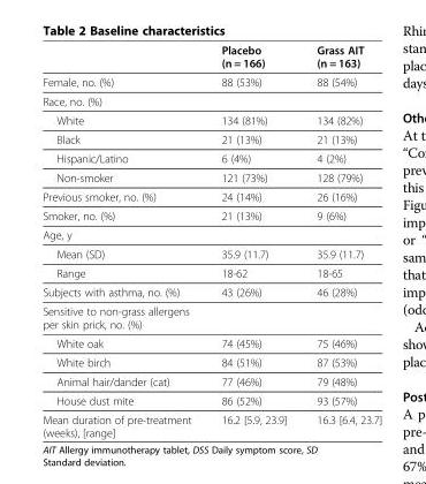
<table><thead><tr><td></td><td>Placebo (n = 166)</td><td>Grass AIT (n = 163)</td></tr></thead><tbody><tr><td>Female, no. (%)</td><td>88 (53%)</td><td>88 (54%)</td></tr><tr><td colspan="3">Race, no. (%)</td></tr><tr><td>White</td><td>134 (81%)</td><td>134 (82%)</td></tr><tr><td>Black</td><td>21 (13%)</td><td>21 (13%)</td></tr><tr><td>Hispanic/Latino</td><td>6 (4%)</td><td>4 (2%)</td></tr><tr><td>Non-smoker</td><td>121 (73%)</td><td>128 (79%)</td></tr><tr><td>Previous smoker, no. (%)</td><td>24 (14%)</td><td>26 (16%)</td></tr><tr><td>Smoker, no. (%)</td><td>21 (13%)</td><td>9 (6%)</td></tr><tr><td colspan="3">Age, y</td></tr><tr><td>Mean (SD)</td><td>35.9 (11.7)</td><td>35.9 (11.7)</td></tr><tr><td>Range</td><td>18-62</td><td>18-65</td></tr><tr><td>Subjects with asthma, no. (%)</td><td>43 (26%)</td><td>46 (28%)</td></tr><tr><td colspan="3">Sensitive to non-grass allergens per skin prick, no. (%)</td></tr><tr><td>White oak</td><td>74 (45%)</td><td>75 (46%)</td></tr><tr><td>White birch</td><td>84 (51%)</td><td>87 (53%)</td></tr><tr><td>Animal hair/dander (cat)</td><td>77 (46%)</td><td>79 (48%)</td></tr><tr><td>House dust mite</td><td>86 (52%)</td><td>93 (57%)</td></tr><tr><td>Mean duration of pre-treatment (weeks), [range]</td><td>16.2 [5.9, 23.9]</td><td>16.3 [6.4, 23.7]</td></tr></tbody></table>